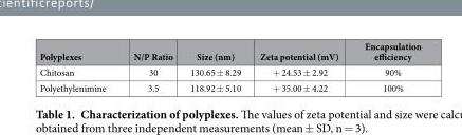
<table><thead><tr><td>Polyplexes</td><td>N/P Ratio</td><td>Size (nm)</td><td>Zeta potential (mV)</td><td>Encapsulation efficiency</td></tr></thead><tbody><tr><td>Chitosan</td><td>30</td><td>130.65 ± 8.29</td><td>+ 24.53 ± 2.92</td><td>90%</td></tr><tr><td>Polyethylenimine</td><td>3.5</td><td>118.92 ± 5.10</td><td>+ 35.00 ± 4.22</td><td>100%</td></tr></tbody></table>